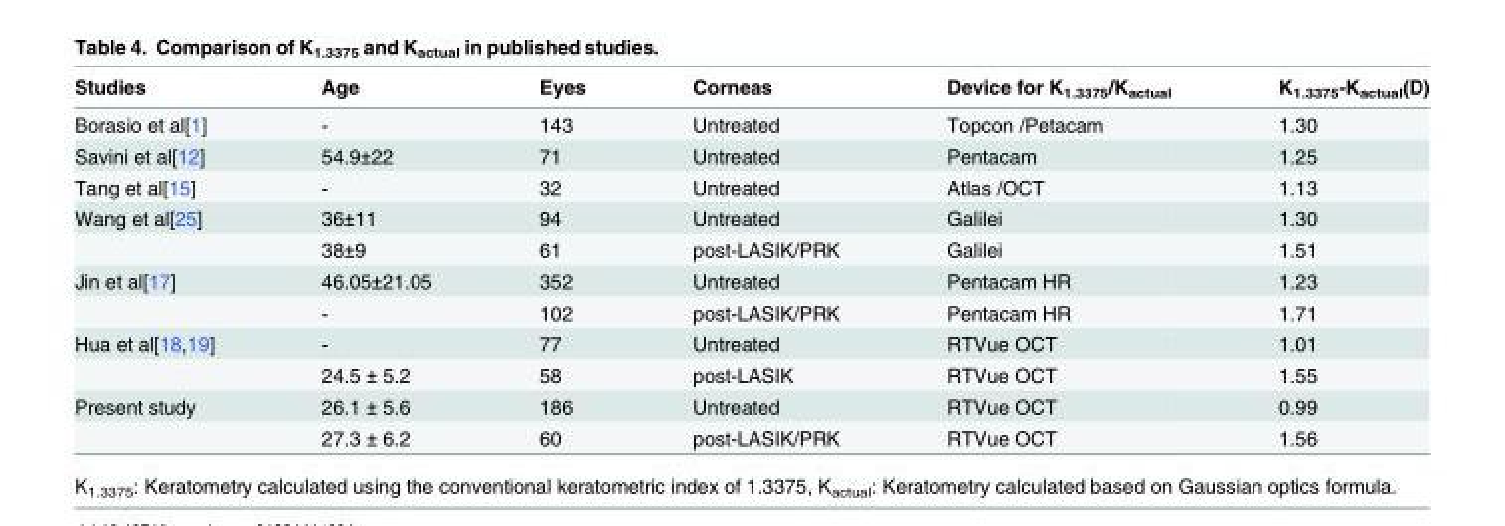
<table><thead><tr><td>Studies</td><td>Age</td><td>Eyes</td><td>Corneas</td><td>Device for K<sub>1.3375</sub>/K<sub>actual</sub></td><td>K<sub>1.3375</sub>-K<sub>actual</sub>(D)</td></tr></thead><tbody><tr><td>Borasio et al[1]</td><td>-</td><td>143</td><td>Untreated</td><td>Topcon /Petacam</td><td>1.30</td></tr><tr><td>Savini et al[12]</td><td>54.9±22</td><td>71</td><td>Untreated</td><td>Pentacam</td><td>1.25</td></tr><tr><td>Tang et al[15]</td><td>-</td><td>32</td><td>Untreated</td><td>Atlas /OCT</td><td>1.13</td></tr><tr><td rowspan="2">Wang et al[25]</td><td>36±11</td><td>94</td><td>Untreated</td><td>Galilei</td><td>1.30</td></tr><tr><td>38±9</td><td>61</td><td>post-LASIK/PRK</td><td>Galilei</td><td>1.51</td></tr><tr><td rowspan="2">Jin et al[17]</td><td>46.05±21.05</td><td>352</td><td>Untreated</td><td>Pentacam HR</td><td>1.23</td></tr><tr><td>-</td><td>102</td><td>post-LASIK/PRK</td><td>Pentacam HR</td><td>1.71</td></tr><tr><td rowspan="2">Hua et al[18,19]</td><td>-</td><td>77</td><td>Untreated</td><td>RTVue OCT</td><td>1.01</td></tr><tr><td>24.5 ± 5.2</td><td>58</td><td>post-LASIK</td><td>RTVue OCT</td><td>1.55</td></tr><tr><td rowspan="2">Present study</td><td>26.1 ± 5.6</td><td>186</td><td>Untreated</td><td>RTVue OCT</td><td>0.99</td></tr><tr><td>27.3 ± 6.2</td><td>60</td><td>post-LASIK/PRK</td><td>RTVue OCT</td><td>1.56</td></tr></tbody></table>